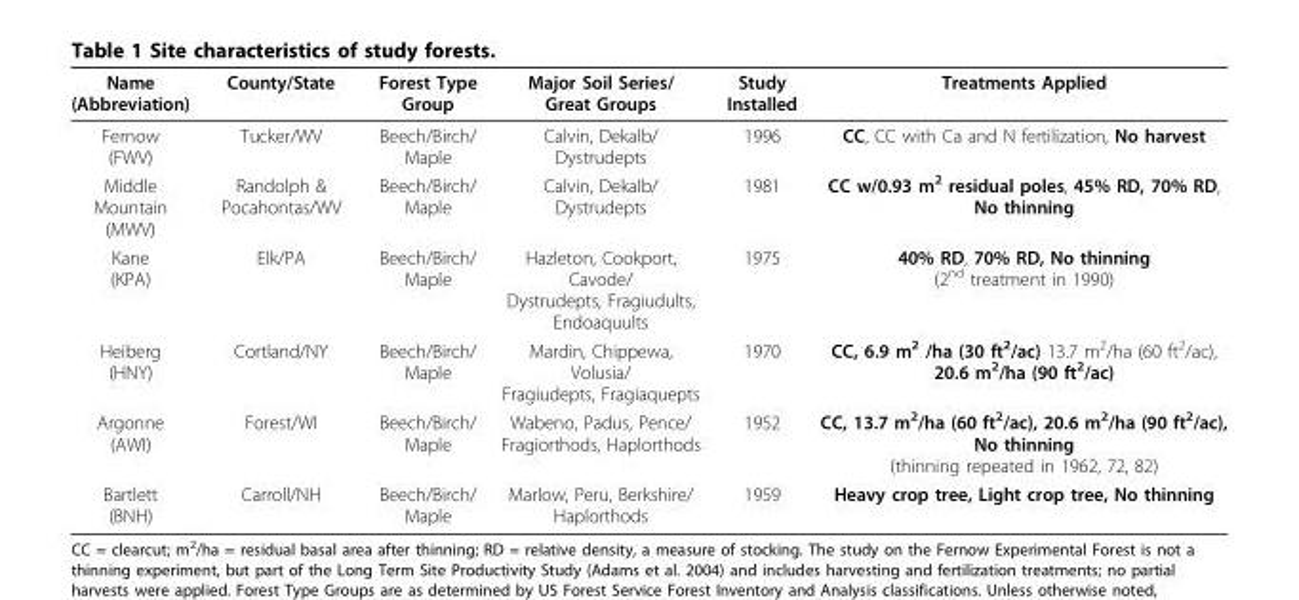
<table><thead><tr><td>Name (Abbreviation)</td><td>County/State</td><td>Forest Type Group</td><td>Major Soil Series/ Great Groups</td><td>Study Installed</td><td>Treatments Applied</td></tr></thead><tbody><tr><td>Fernow (FWV)</td><td>Tucker/WV</td><td>Beech/Birch/ Maple</td><td>Calvin, Dekalb/ Dystrudepts</td><td>1996</td><td>CC, CC with Ca and N fertilization, No harvest</td></tr><tr><td>Middle Mountain (MWV)</td><td>Randolph &amp; Pocahontas/WV</td><td>Beech/Birch/ Maple</td><td>Calvin, Dekalb/ Dystrudepts</td><td>1981</td><td>CC w/0.93 m<sup>2</sup> residual poles, 45% RD, 70% RD, No thinning</td></tr><tr><td>Kane (KPA)</td><td>Elk/PA</td><td>Beech/Birch/ Maple</td><td>Hazleton, Cookport, Cavode/ Dystrudepts, Fragiudults, Endoaquults</td><td>1975</td><td>40% RD, 70% RD, No thinning (2<sup>nd</sup> treatment in 1990)</td></tr><tr><td>Heiberg (HNY)</td><td>Cortland/NY</td><td>Beech/Birch/ Maple</td><td>Mardin, Chippewa, Volusia/ Fragiudepts, Fragiaquepts</td><td>1970</td><td>CC, 6.9 m<sup>2</sup> /ha (30 ft<sup>2</sup>/ac) 13.7 m<sup>2</sup>/ha (60 ft<sup>2</sup>/ac), 20.6 m<sup>2</sup>/ha (90 ft<sup>2</sup>/ac)</td></tr><tr><td>Argonne (AWI)</td><td>Forest/WI</td><td>Beech/Birch/ Maple</td><td>Wabeno, Padus, Pence/ Fragiorthods, Haplorthods</td><td>1952</td><td>CC, 13.7 m<sup>2</sup>/ha (60 ft<sup>2</sup>/ac), 20.6 m<sup>2</sup>/ha (90 ft<sup>2</sup>/ac), No thinning (thinning repeated in 1962, 72, 82)</td></tr><tr><td>Bartlett (BNH)</td><td>Carroll/NH</td><td>Beech/Birch/ Maple</td><td>Marlow, Peru, Berkshire/ Haplorthods</td><td>1959</td><td>Heavy crop tree, Light crop tree, No thinning</td></tr></tbody></table>